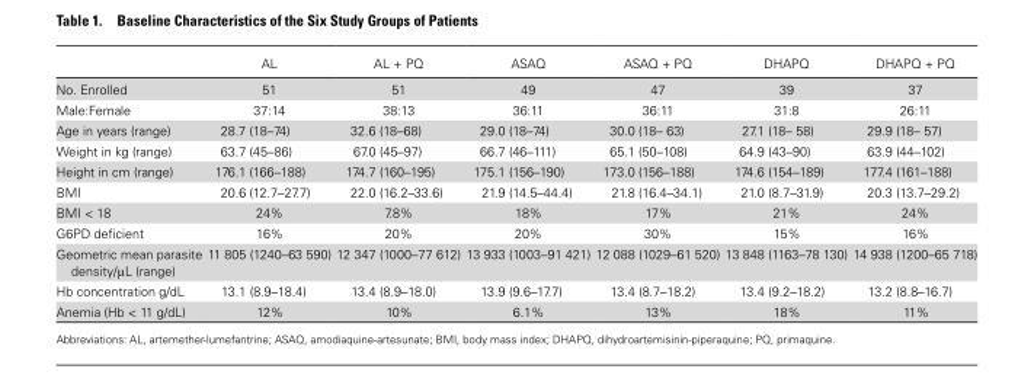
<table><thead><tr><td></td><td>AL</td><td>AL + PQ</td><td>ASAQ</td><td>ASAQ + PQ</td><td>DHAPQ</td><td>DHAPQ + PQ</td></tr></thead><tbody><tr><td>No. Enrolled</td><td>51</td><td>51</td><td>49</td><td>47</td><td>39</td><td>37</td></tr><tr><td>Male:Female</td><td>37:14</td><td>38:13</td><td>36:11</td><td>36:11</td><td>31:8</td><td>26:11</td></tr><tr><td>Age in years (range)</td><td>28.7 (18–74)</td><td>32.6 (18–68)</td><td>29.0 (18–74)</td><td>30.0 (18– 63)</td><td>27.1 (18– 58)</td><td>29.9 (18– 57)</td></tr><tr><td>Weight in kg (range)</td><td>63.7 (45–86)</td><td>67.0 (45–97)</td><td>66.7 (46–111)</td><td>65.1 (50–108)</td><td>64.9 (43–90)</td><td>63.9 (44–102)</td></tr><tr><td>Height in cm (range)</td><td>176.1 (166–188)</td><td>174.7 (160–195)</td><td>175.1 (156–190)</td><td>173.0 (156–188)</td><td>174.6 (154–189)</td><td>177.4 (161–188)</td></tr><tr><td>BMI</td><td>20.6 (12.7–27.7)</td><td>22.0 (16.2–33.6)</td><td>21.9 (14.5–44.4)</td><td>21.8 (16.4–34.1)</td><td>21.0 (8.7–31.9)</td><td>20.3 (13.7–29.2)</td></tr><tr><td>BMI &lt; 18</td><td>24%</td><td>7.8%</td><td>18%</td><td>17%</td><td>21%</td><td>24%</td></tr><tr><td>G6PD deficient</td><td>16%</td><td>20%</td><td>20%</td><td>30%</td><td>15%</td><td>16%</td></tr><tr><td>Geometric mean parasite density/μL (range)</td><td>11 805 (1240–63 590)</td><td>12 347 (1000–77 612)</td><td>13 933 (1003–91 421)</td><td>12 088 (1029–61 520)</td><td>13 848 (1163–78 130)</td><td>14 938 (1200–65 718)</td></tr><tr><td>Hb concentration g/dL</td><td>13.1 (8.9–18.4)</td><td>13.4 (8.9–18.0)</td><td>13.9 (9.6–17.7)</td><td>13.4 (8.7–18.2)</td><td>13.4 (9.2–18.2)</td><td>13.2 (8.8–16.7)</td></tr><tr><td>Anemia (Hb &lt; 11 g/dL)</td><td>12%</td><td>10%</td><td>6.1%</td><td>13%</td><td>18%</td><td>11%</td></tr></tbody></table>